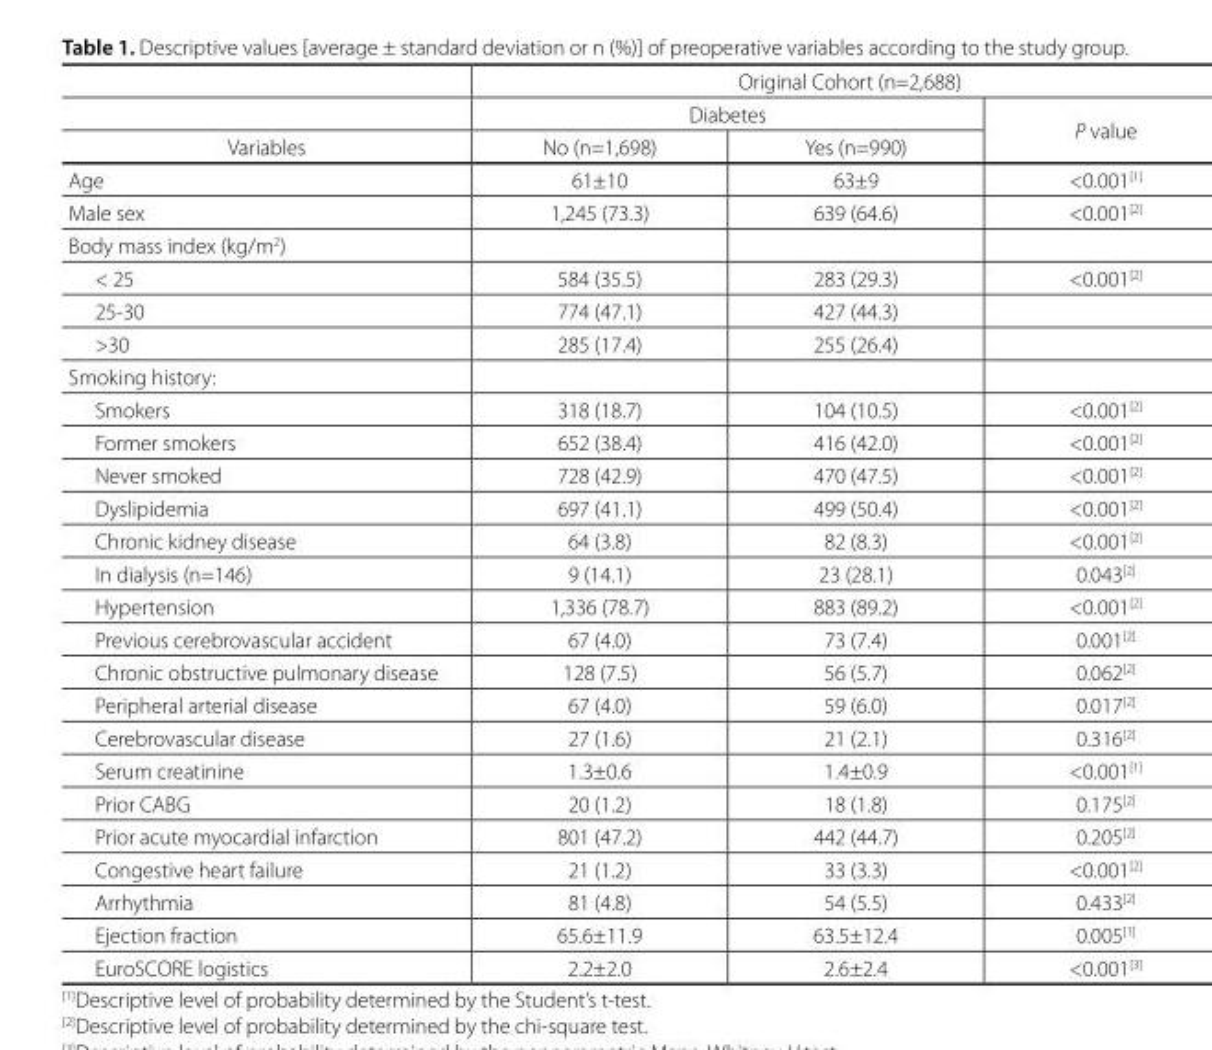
<table><thead><tr><td rowspan="3">Variables</td><td colspan="3">Original Cohort (n=2,688)</td></tr><tr><td colspan="2">Diabetes</td><td rowspan="2">P value</td></tr><tr><td>No (n=1,698)</td><td>Yes (n=990)</td></tr></thead><tbody><tr><td>Age</td><td>61±10</td><td>63±9</td><td>&lt;0.001<sup>[1]</sup></td></tr><tr><td>Male sex</td><td>1,245 (73.3)</td><td>639 (64.6)</td><td>&lt;0.001<sup>[2]</sup></td></tr><tr><td colspan="4">Body mass index (kg/m<sup>2</sup>)</td></tr><tr><td>&lt; 25</td><td>584 (35.5)</td><td>283 (29.3)</td><td>&lt;0.001<sup>[2]</sup></td></tr><tr><td>25-30</td><td>774 (47.1)</td><td>427 (44.3)</td><td></td></tr><tr><td>&gt;30</td><td>285 (17.4)</td><td>255 (26.4)</td><td></td></tr><tr><td colspan="4">Smoking history:</td></tr><tr><td>Smokers</td><td>318 (18.7)</td><td>104 (10.5)</td><td>&lt;0.001<sup>[2]</sup></td></tr><tr><td>Former smokers</td><td>652 (38.4)</td><td>416 (42.0)</td><td>&lt;0.001<sup>[2]</sup></td></tr><tr><td>Never smoked</td><td>728 (42.9)</td><td>470 (47.5)</td><td>&lt;0.001<sup>[2]</sup></td></tr><tr><td>Dyslipidemia</td><td>697 (41.1)</td><td>499 (50.4)</td><td>&lt;0.001<sup>[2]</sup></td></tr><tr><td>Chronic kidney disease</td><td>64 (3.8)</td><td>82 (8.3)</td><td>&lt;0.001<sup>[2]</sup></td></tr><tr><td>In dialysis (n=146)</td><td>9 (14.1)</td><td>23 (28.1)</td><td>0.043<sup>[2]</sup></td></tr><tr><td>Hypertension</td><td>1,336 (78.7)</td><td>883 (89.2)</td><td>&lt;0.001<sup>[2]</sup></td></tr><tr><td>Previous cerebrovascular accident</td><td>67 (4.0)</td><td>73 (7.4)</td><td>0.001<sup>[2]</sup></td></tr><tr><td>Chronic obstructive pulmonary disease</td><td>128 (7.5)</td><td>56 (5.7)</td><td>0.062<sup>[2]</sup></td></tr><tr><td>Peripheral arterial disease</td><td>67 (4.0)</td><td>59 (6.0)</td><td>0.017<sup>[2]</sup></td></tr><tr><td>Cerebrovascular disease</td><td>27 (1.6)</td><td>21 (2.1)</td><td>0.316<sup>[2]</sup></td></tr><tr><td>Serum creatinine</td><td>1.3±0.6</td><td>1.4±0.9</td><td>&lt;0.001<sup>[1]</sup></td></tr><tr><td>Prior CABG</td><td>20 (1.2)</td><td>18 (1.8)</td><td>0.175<sup>[2]</sup></td></tr><tr><td>Prior acute myocardial infarction</td><td>801 (47.2)</td><td>442 (44.7)</td><td>0.205<sup>[2]</sup></td></tr><tr><td>Congestive heart failure</td><td>21 (1.2)</td><td>33 (3.3)</td><td>&lt;0.001<sup>[2]</sup></td></tr><tr><td>Arrhythmia</td><td>81 (4.8)</td><td>54 (5.5)</td><td>0.433<sup>[2]</sup></td></tr><tr><td>Ejection fraction</td><td>65.6±11.9</td><td>63.5±12.4</td><td>0.005<sup>[1]</sup></td></tr><tr><td>EuroSCORE logistics</td><td>2.2±2.0</td><td>2.6±2.4</td><td>&lt;0.001<sup>[3]</sup></td></tr></tbody></table>